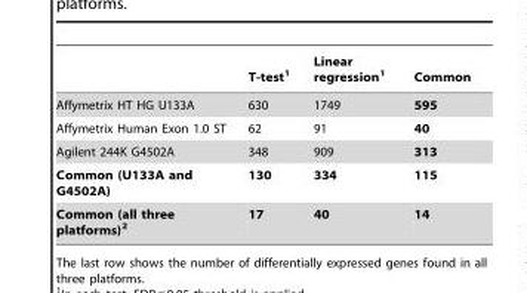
<table><thead><tr><td></td><td>T-test<sup>1</sup></td><td>Linear regression<sup>1</sup></td><td>Common</td></tr></thead><tbody><tr><td>Affymetrix HT HG U133A</td><td>630</td><td>1749</td><td>595</td></tr><tr><td>Affymetrix Human Exon 1.0 ST</td><td>62</td><td>91</td><td>40</td></tr><tr><td>Agilent 244K G4502A</td><td>348</td><td>909</td><td>313</td></tr><tr><td>Common (U133A and G4502A)</td><td>130</td><td>334</td><td>115</td></tr><tr><td>Common (all three platforms)2</td><td>17</td><td>40</td><td>14</td></tr></tbody></table>